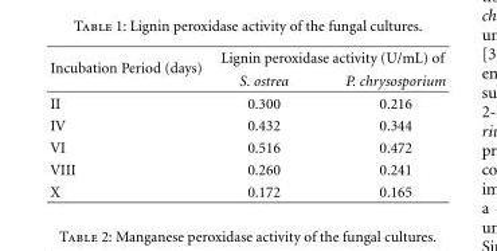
<table><thead><tr><td rowspan="2">Incubation Period (days)</td><td colspan="2">Lignin peroxidase activity (U/mL) of</td></tr><tr><td>S. ostrea</td><td>P. chrysosporium</td></tr></thead><tbody><tr><td>II</td><td>0.300</td><td>0.216</td></tr><tr><td>IV</td><td>0.432</td><td>0.344</td></tr><tr><td>VI</td><td>0.516</td><td>0.472</td></tr><tr><td>VIII</td><td>0.260</td><td>0.241</td></tr><tr><td>X</td><td>0.172</td><td>0.165</td></tr></tbody></table>